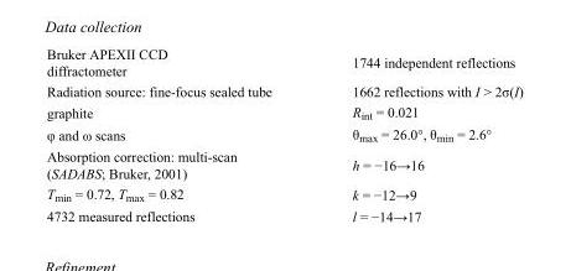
<table><tbody><tr><td>Bruker APEXII CCD diffractometer</td><td>1744 independent reflections</td></tr><tr><td>Radiation source: fine-focus sealed tube</td><td>1662 reflections with I &gt; 2σ(I)</td></tr><tr><td>graphite</td><td>R<sub>int</sub> = 0.021</td></tr><tr><td>φ and ω scans</td><td>θ<sub>max</sub> = 26.0°, θ<sub>min</sub> = 2.6°</td></tr><tr><td>Absorption correction: multi-scan (SADABS; Bruker, 2001)</td><td>h = −16→16</td></tr><tr><td>T<sub>min</sub> = 0.72, T<sub>max</sub> = 0.82</td><td>k = −12→9</td></tr><tr><td>4732 measured reflections</td><td>l = −14→17</td></tr></tbody></table>